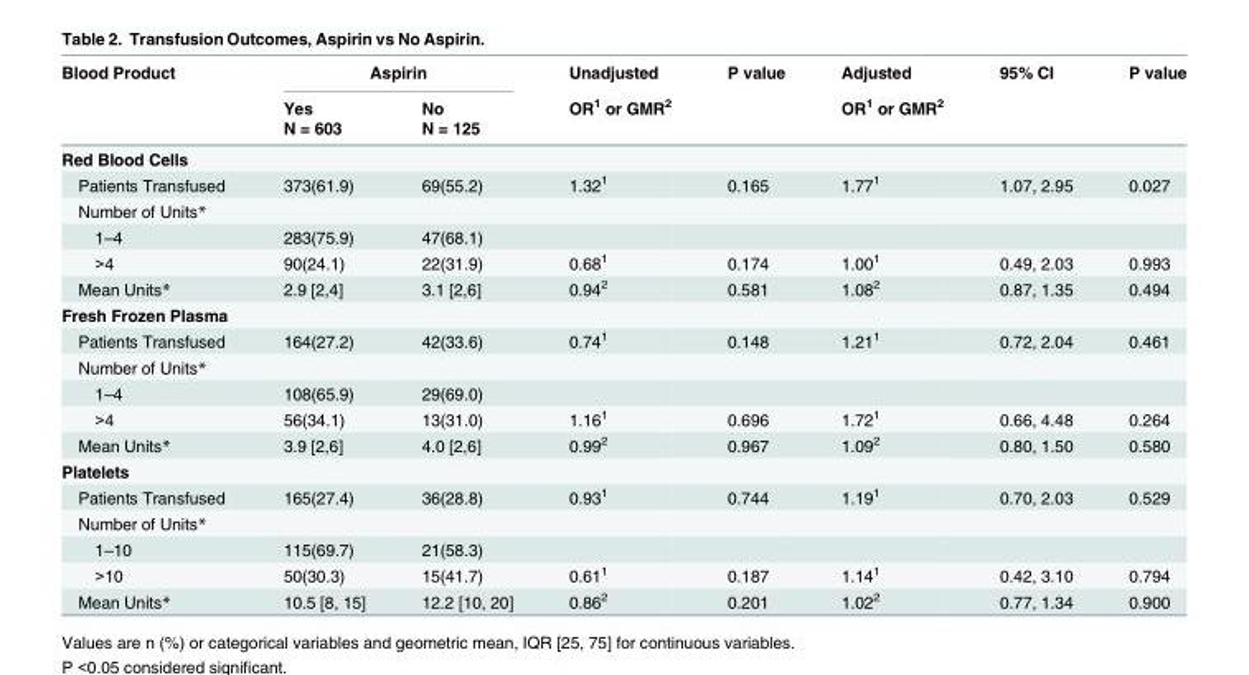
<table><thead><tr><td rowspan="3">Blood Product</td><td colspan="2">Aspirin</td><td rowspan="3">Unadjusted OR<sup>1</sup> or GMR<sup>2</sup></td><td rowspan="3">P value</td><td rowspan="3">Adjusted OR<sup>1</sup> or GMR<sup>2</sup></td><td rowspan="3">95% CI</td><td rowspan="3">P value</td></tr><tr><td rowspan="2">Yes N = 603</td><td rowspan="2">No N = 125</td></tr><tr></tr></thead><tbody><tr><td colspan="8">Red Blood Cells</td></tr><tr><td>Patients Transfused</td><td>373(61.9)</td><td>69(55.2)</td><td>1.32<sup>1</sup></td><td>0.165</td><td>1.77<sup>1</sup></td><td>1.07, 2.95</td><td>0.027</td></tr><tr><td colspan="8">Number of Units*</td></tr><tr><td>1–4</td><td>283(75.9)</td><td>47(68.1)</td><td></td><td></td><td></td><td></td><td></td></tr><tr><td>&gt;4</td><td>90(24.1)</td><td>22(31.9)</td><td>0.68<sup>1</sup></td><td>0.174</td><td>1.00<sup>1</sup></td><td>0.49, 2.03</td><td>0.993</td></tr><tr><td>Mean Units*</td><td>2.9 [2,4]</td><td>3.1 [2,6]</td><td>0.94<sup>2</sup></td><td>0.581</td><td>1.08<sup>2</sup></td><td>0.87, 1.35</td><td>0.494</td></tr><tr><td colspan="8">Fresh Frozen Plasma</td></tr><tr><td>Patients Transfused</td><td>164(27.2)</td><td>42(33.6)</td><td>0.74<sup>1</sup></td><td>0.148</td><td>1.21<sup>1</sup></td><td>0.72, 2.04</td><td>0.461</td></tr><tr><td colspan="8">Number of Units*</td></tr><tr><td>1–4</td><td>108(65.9)</td><td>29(69.0)</td><td></td><td></td><td></td><td></td><td></td></tr><tr><td>&gt;4</td><td>56(34.1)</td><td>13(31.0)</td><td>1.16<sup>1</sup></td><td>0.696</td><td>1.72<sup>1</sup></td><td>0.66, 4.48</td><td>0.264</td></tr><tr><td>Mean Units*</td><td>3.9 [2,6]</td><td>4.0 [2,6]</td><td>0.99<sup>2</sup></td><td>0.967</td><td>1.09<sup>2</sup></td><td>0.80, 1.50</td><td>0.580</td></tr><tr><td colspan="8">Platelets</td></tr><tr><td>Patients Transfused</td><td>165(27.4)</td><td>36(28.8)</td><td>0.93<sup>1</sup></td><td>0.744</td><td>1.19<sup>1</sup></td><td>0.70, 2.03</td><td>0.529</td></tr><tr><td colspan="8">Number of Units*</td></tr><tr><td>1–10</td><td>115(69.7)</td><td>21(58.3)</td><td></td><td></td><td></td><td></td><td></td></tr><tr><td>&gt;10</td><td>50(30.3)</td><td>15(41.7)</td><td>0.61<sup>1</sup></td><td>0.187</td><td>1.14<sup>1</sup></td><td>0.42, 3.10</td><td>0.794</td></tr><tr><td>Mean Units*</td><td>10.5 [8, 15]</td><td>12.2 [10, 20]</td><td>0.86<sup>2</sup></td><td>0.201</td><td>1.02<sup>2</sup></td><td>0.77, 1.34</td><td>0.900</td></tr></tbody></table>